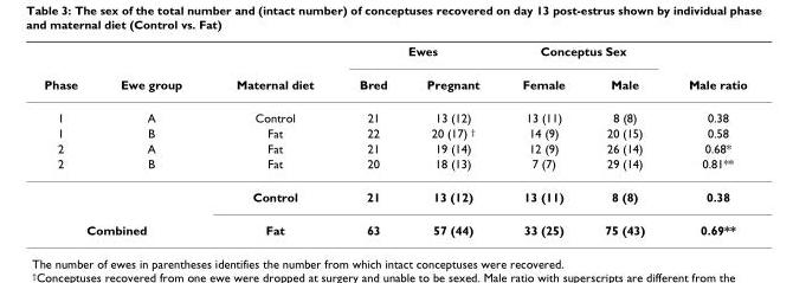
<table><thead><tr><td rowspan="2">Phase</td><td rowspan="2">Ewe group</td><td rowspan="2">Maternal diet</td><td colspan="2">Ewes</td><td colspan="2">Conceptus Sex</td><td rowspan="2">Male ratio</td></tr><tr><td>Bred</td><td>Pregnant</td><td>Female</td><td>Male</td></tr></thead><tbody><tr><td>1</td><td>A</td><td>Control</td><td>21</td><td>13 (12)</td><td>13 (11)</td><td>8 (8)</td><td>0.38</td></tr><tr><td>1</td><td>B</td><td>Fat</td><td>22</td><td>20 (17) <sup>†</sup></td><td>14 (9)</td><td>20 (15)</td><td>0.58</td></tr><tr><td>2</td><td>A</td><td>Fat</td><td>21</td><td>19 (14)</td><td>12 (9)</td><td>26 (14)</td><td>0.68*</td></tr><tr><td rowspan="2">2</td><td>B</td><td>Fat</td><td>20</td><td>18 (13)</td><td>7 (7)</td><td>29 (14)</td><td>0.81**</td></tr><tr><td></td><td>Control</td><td>21</td><td>13 (12)</td><td>13 (11)</td><td>8 (8)</td><td>0.38</td></tr><tr><td colspan="2">Combined</td><td>Fat</td><td>63</td><td>57 (44)</td><td>33 (25)</td><td>75 (43)</td><td>0.69**</td></tr></tbody></table>